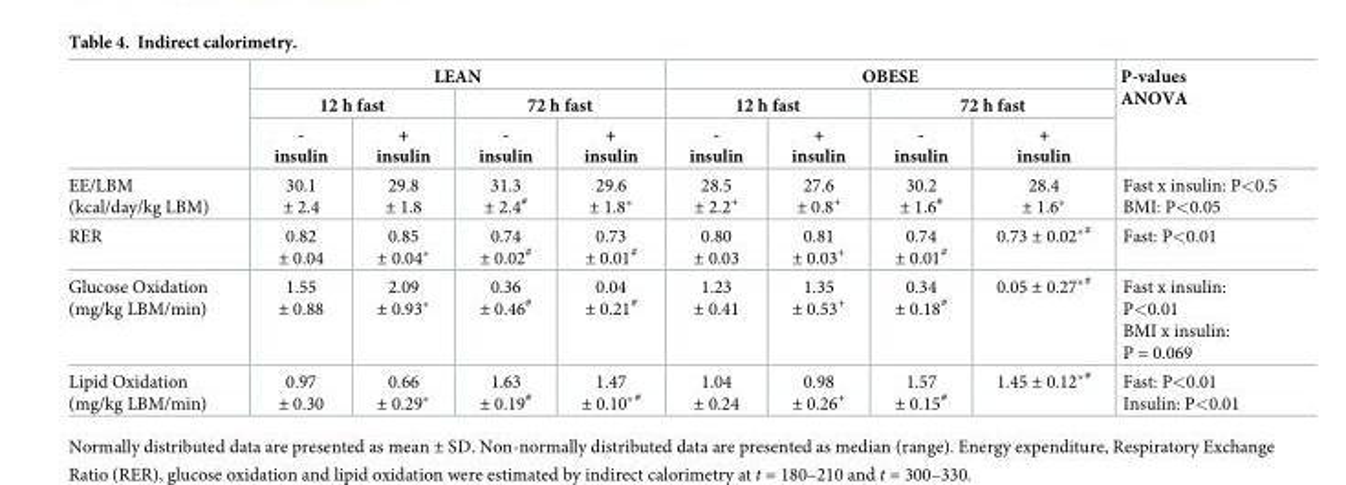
<table><thead><tr><td rowspan="3"></td><td colspan="4">LEAN</td><td colspan="4">OBESE</td><td rowspan="3">P-values ANOVA</td></tr><tr><td colspan="2">12 h fast</td><td colspan="2">72 h fast</td><td colspan="2">12 h fast</td><td colspan="2">72 h fast</td></tr><tr><td>- insulin</td><td>+ insulin</td><td>- insulin</td><td>+ insulin</td><td>- insulin</td><td>+ insulin</td><td>- insulin</td><td>+ insulin</td></tr></thead><tbody><tr><td>EE/LBM (kcal/day/kg LBM)</td><td>30.1 ± 2.4</td><td>29.8 ± 1.8</td><td>31.3 ± 2.4<sup>#</sup></td><td>29.6 ± 1.8*</td><td>28.5 ± 2.2<sup>+</sup></td><td>27.6 ± 0.8<sup>+</sup></td><td>30.2 ± 1.6<sup>#</sup></td><td>28.4 ± 1.6*</td><td>Fast x insulin: P&lt;0.5 BMI: P&lt;0.05</td></tr><tr><td>RER</td><td>0.82 ± 0.04</td><td>0.85 ± 0.04*</td><td>0.74 ± 0.02<sup>#</sup></td><td>0.73 ± 0.01<sup>#</sup></td><td>0.80 ± 0.03</td><td>0.81 ± 0.03<sup>+</sup></td><td>0.74 ± 0.01<sup>#</sup></td><td>0.73 ± 0.02*<sup>#</sup></td><td>Fast: P&lt;0.01</td></tr><tr><td>Glucose Oxidation (mg/kg LBM/min)</td><td>1.55 ± 0.88</td><td>2.09 ± 0.93*</td><td>0.36 ± 0.46<sup>#</sup></td><td>0.04 ± 0.21<sup>#</sup></td><td>1.23 ± 0.41</td><td>1.35 ± 0.53<sup>+</sup></td><td>0.34 ± 0.18<sup>#</sup></td><td>0.05 ± 0.27*<sup>#</sup></td><td>Fast x insulin: P&lt;0.01 BMI x insulin: P = 0.069</td></tr><tr><td>Lipid Oxidation (mg/kg LBM/min)</td><td>0.97 ± 0.30</td><td>0.66 ± 0.29*</td><td>1.63 ± 0.19<sup>#</sup></td><td>1.47 ± 0.10*<sup>#</sup></td><td>1.04 ± 0.24</td><td>0.98 ± 0.26<sup>+</sup></td><td>1.57 ± 0.15<sup>#</sup></td><td>1.45 ± 0.12*<sup>#</sup></td><td>Fast: P&lt;0.01 Insulin: P&lt;0.01</td></tr></tbody></table>